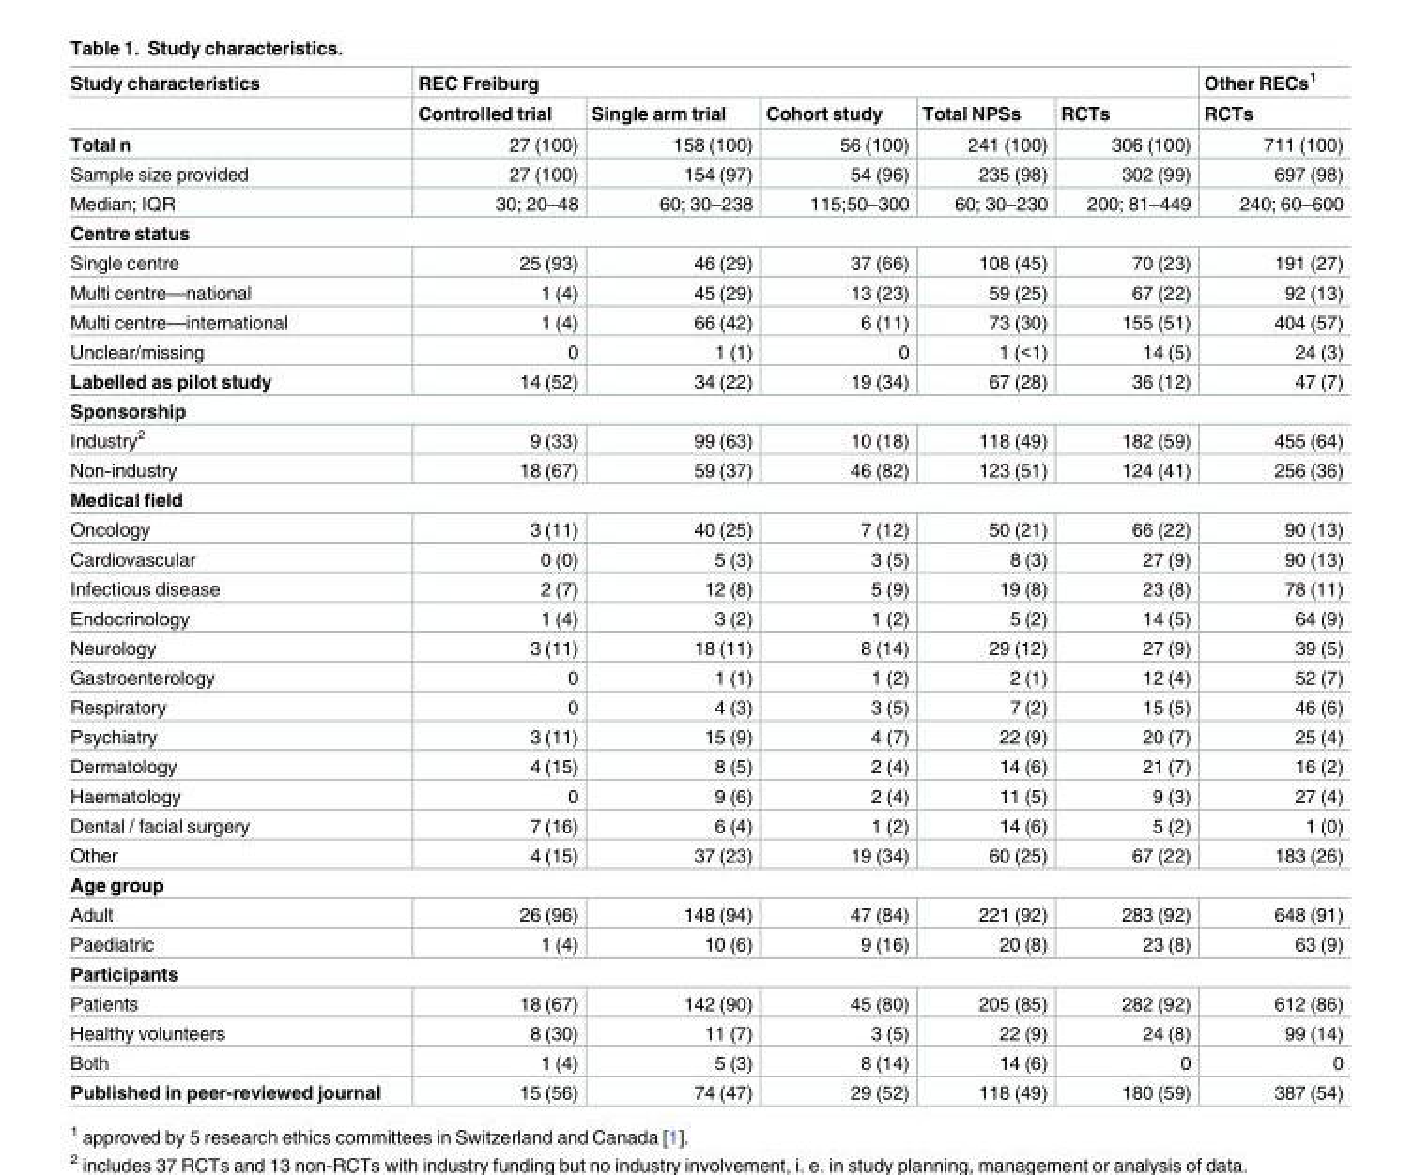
<table><thead><tr><td rowspan="2">Study characteristics</td><td colspan="5">REC Freiburg</td><td rowspan="2">Other RECs<sup>1</sup> RCTs</td></tr><tr><td>Controlled trial</td><td>Single arm trial</td><td>Cohort study</td><td>Total NPSs</td><td>RCTs</td></tr></thead><tbody><tr><td>Total n</td><td>27 (100)</td><td>158 (100)</td><td>56 (100)</td><td>241 (100)</td><td>306 (100)</td><td>711 (100)</td></tr><tr><td>Sample size provided</td><td>27 (100)</td><td>154 (97)</td><td>54 (96)</td><td>235 (98)</td><td>302 (99)</td><td>697 (98)</td></tr><tr><td>Median; IQR</td><td>30; 20–48</td><td>60; 30–238</td><td>115;50–300</td><td>60; 30–230</td><td>200; 81–449</td><td>240; 60–600</td></tr><tr><td colspan="7">Centre status</td></tr><tr><td>Single centre</td><td>25 (93)</td><td>46 (29)</td><td>37 (66)</td><td>108 (45)</td><td>70 (23)</td><td>191 (27)</td></tr><tr><td>Multi centre—national</td><td>1 (4)</td><td>45 (29)</td><td>13 (23)</td><td>59 (25)</td><td>67 (22)</td><td>92 (13)</td></tr><tr><td>Multi centre—international</td><td>1 (4)</td><td>66 (42)</td><td>6 (11)</td><td>73 (30)</td><td>155 (51)</td><td>404 (57)</td></tr><tr><td>Unclear/missing</td><td>0</td><td>1 (1)</td><td>0</td><td>1 (&lt;1)</td><td>14 (5)</td><td>24 (3)</td></tr><tr><td>Labelled as pilot study</td><td>14 (52)</td><td>34 (22)</td><td>19 (34)</td><td>67 (28)</td><td>36 (12)</td><td>47 (7)</td></tr><tr><td colspan="7">Sponsorship</td></tr><tr><td>Industry<sup>2</sup></td><td>9 (33)</td><td>99 (63)</td><td>10 (18)</td><td>118 (49)</td><td>182 (59)</td><td>455 (64)</td></tr><tr><td>Non-industry</td><td>18 (67)</td><td>59 (37)</td><td>46 (82)</td><td>123 (51)</td><td>124 (41)</td><td>256 (36)</td></tr><tr><td colspan="7">Medical field</td></tr><tr><td>Oncology</td><td>3 (11)</td><td>40 (25)</td><td>7 (12)</td><td>50 (21)</td><td>66 (22)</td><td>90 (13)</td></tr><tr><td>Cardiovascular</td><td>0 (0)</td><td>5 (3)</td><td>3 (5)</td><td>8 (3)</td><td>27 (9)</td><td>90 (13)</td></tr><tr><td>Infectious disease</td><td>2 (7)</td><td>12 (8)</td><td>5 (9)</td><td>19 (8)</td><td>23 (8)</td><td>78 (11)</td></tr><tr><td>Endocrinology</td><td>1 (4)</td><td>3 (2)</td><td>1 (2)</td><td>5 (2)</td><td>14 (5)</td><td>64 (9)</td></tr><tr><td>Neurology</td><td>3 (11)</td><td>18 (11)</td><td>8 (14)</td><td>29 (12)</td><td>27 (9)</td><td>39 (5)</td></tr><tr><td>Gastroenterology</td><td>0</td><td>1 (1)</td><td>1 (2)</td><td>2 (1)</td><td>12 (4)</td><td>52 (7)</td></tr><tr><td>Respiratory</td><td>0</td><td>4 (3)</td><td>3 (5)</td><td>7 (2)</td><td>15 (5)</td><td>46 (6)</td></tr><tr><td>Psychiatry</td><td>3 (11)</td><td>15 (9)</td><td>4 (7)</td><td>22 (9)</td><td>20 (7)</td><td>25 (4)</td></tr><tr><td>Dermatology</td><td>4 (15)</td><td>8 (5)</td><td>2 (4)</td><td>14 (6)</td><td>21 (7)</td><td>16 (2)</td></tr><tr><td>Haematology</td><td>0</td><td>9 (6)</td><td>2 (4)</td><td>11 (5)</td><td>9 (3)</td><td>27 (4)</td></tr><tr><td>Dental / facial surgery</td><td>7 (16)</td><td>6 (4)</td><td>1 (2)</td><td>14 (6)</td><td>5 (2)</td><td>1 (0)</td></tr><tr><td>Other</td><td>4 (15)</td><td>37 (23)</td><td>19 (34)</td><td>60 (25)</td><td>67 (22)</td><td>183 (26)</td></tr><tr><td colspan="7">Age group</td></tr><tr><td>Adult</td><td>26 (96)</td><td>148 (94)</td><td>47 (84)</td><td>221 (92)</td><td>283 (92)</td><td>648 (91)</td></tr><tr><td>Paediatric</td><td>1 (4)</td><td>10 (6)</td><td>9 (16)</td><td>20 (8)</td><td>23 (8)</td><td>63 (9)</td></tr><tr><td colspan="7">Participants</td></tr><tr><td>Patients</td><td>18 (67)</td><td>142 (90)</td><td>45 (80)</td><td>205 (85)</td><td>282 (92)</td><td>612 (86)</td></tr><tr><td>Healthy volunteers</td><td>8 (30)</td><td>11 (7)</td><td>3 (5)</td><td>22 (9)</td><td>24 (8)</td><td>99 (14)</td></tr><tr><td>Both</td><td>1 (4)</td><td>5 (3)</td><td>8 (14)</td><td>14 (6)</td><td>0</td><td>0</td></tr><tr><td>Published in peer-reviewed journal</td><td>15 (56)</td><td>74 (47)</td><td>29 (52)</td><td>118 (49)</td><td>180 (59)</td><td>387 (54)</td></tr></tbody></table>